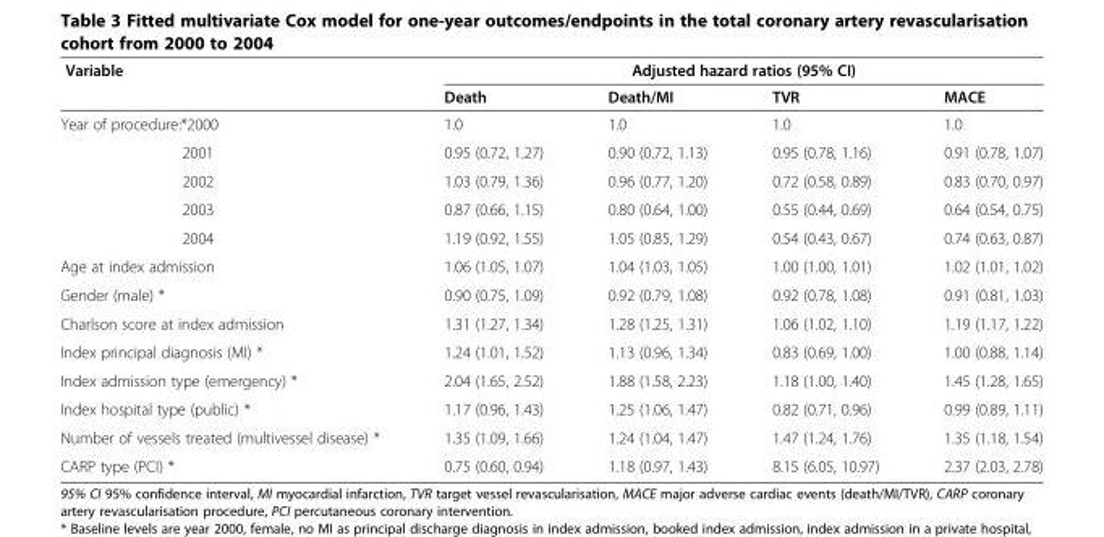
<table><thead><tr><td rowspan="2">Variable</td><td colspan="4">Adjusted hazard ratios (95% CI)</td></tr><tr><td>Death</td><td>Death/MI</td><td>TVR</td><td>MACE</td></tr></thead><tbody><tr><td>Year of procedure:*2000</td><td>1.0</td><td>1.0</td><td>1.0</td><td>1.0</td></tr><tr><td>2001</td><td>0.95 (0.72, 1.27)</td><td>0.90 (0.72, 1.13)</td><td>0.95 (0.78, 1.16)</td><td>0.91 (0.78, 1.07)</td></tr><tr><td>2002</td><td>1.03 (0.79, 1.36)</td><td>0.96 (0.77, 1.20)</td><td>0.72 (0.58, 0.89)</td><td>0.83 (0.70, 0.97)</td></tr><tr><td>2003</td><td>0.87 (0.66, 1.15)</td><td>0.80 (0.64, 1.00)</td><td>0.55 (0.44, 0.69)</td><td>0.64 (0.54, 0.75)</td></tr><tr><td>2004</td><td>1.19 (0.92, 1.55)</td><td>1.05 (0.85, 1.29)</td><td>0.54 (0.43, 0.67)</td><td>0.74 (0.63, 0.87)</td></tr><tr><td>Age at index admission</td><td>1.06 (1.05, 1.07)</td><td>1.04 (1.03, 1.05)</td><td>1.00 (1.00, 1.01)</td><td>1.02 (1.01, 1.02)</td></tr><tr><td>Gender (male) *</td><td>0.90 (0.75, 1.09)</td><td>0.92 (0.79, 1.08)</td><td>0.92 (0.78, 1.08)</td><td>0.91 (0.81, 1.03)</td></tr><tr><td>Charlson score at index admission</td><td>1.31 (1.27, 1.34)</td><td>1.28 (1.25, 1.31)</td><td>1.06 (1.02, 1.10)</td><td>1.19 (1.17, 1.22)</td></tr><tr><td>Index principal diagnosis (MI) *</td><td>1.24 (1.01, 1.52)</td><td>1.13 (0.96, 1.34)</td><td>0.83 (0.69, 1.00)</td><td>1.00 (0.88, 1.14)</td></tr><tr><td>Index admission type (emergency) *</td><td>2.04 (1.65, 2.52)</td><td>1.88 (1.58, 2.23)</td><td>1.18 (1.00, 1.40)</td><td>1.45 (1.28, 1.65)</td></tr><tr><td>Index hospital type (public) *</td><td>1.17 (0.96, 1.43)</td><td>1.25 (1.06, 1.47)</td><td>0.82 (0.71, 0.96)</td><td>0.99 (0.89, 1.11)</td></tr><tr><td>Number of vessels treated (multivessel disease) *</td><td>1.35 (1.09, 1.66)</td><td>1.24 (1.04, 1.47)</td><td>1.47 (1.24, 1.76)</td><td>1.35 (1.18, 1.54)</td></tr><tr><td>CARP type (PCI) *</td><td>0.75 (0.60, 0.94)</td><td>1.18 (0.97, 1.43)</td><td>8.15 (6.05, 10.97)</td><td>2.37 (2.03, 2.78)</td></tr></tbody></table>